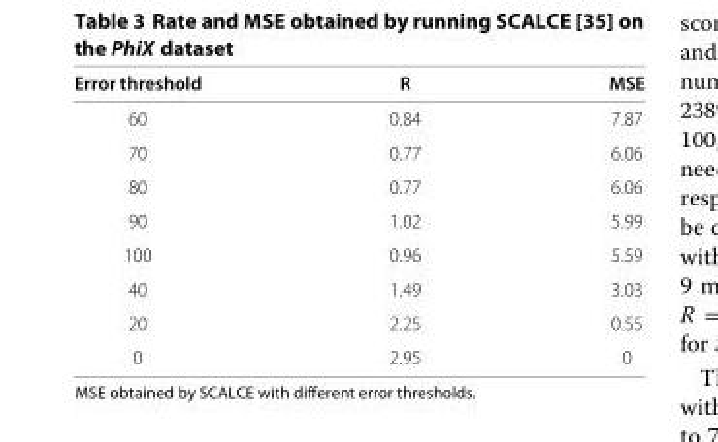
<table><thead><tr><td>Error threshold</td><td>R</td><td>MSE</td></tr></thead><tbody><tr><td>60</td><td>0.84</td><td>7.87</td></tr><tr><td>70</td><td>0.77</td><td>6.06</td></tr><tr><td>80</td><td>0.77</td><td>6.06</td></tr><tr><td>90</td><td>1.02</td><td>5.99</td></tr><tr><td>100</td><td>0.96</td><td>5.59</td></tr><tr><td>40</td><td>1.49</td><td>3.03</td></tr><tr><td>20</td><td>2.25</td><td>0.55</td></tr><tr><td>0</td><td>2.95</td><td>0</td></tr></tbody></table>